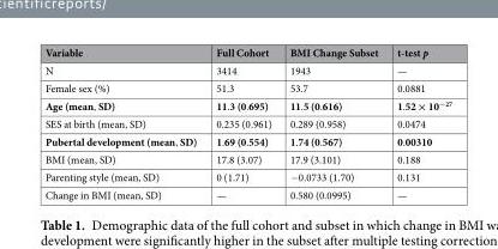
<table><thead><tr><td>Variable</td><td>Full Cohort</td><td>BMI Change Subset</td><td>t-test p</td></tr></thead><tbody><tr><td>N</td><td>3414</td><td>1943</td><td>—</td></tr><tr><td>Female sex (%)</td><td>51.3</td><td>53.7</td><td>0.0881</td></tr><tr><td>Age (mean, SD)</td><td>11.3 (0.695)</td><td>11.5 (0.616)</td><td>1.52 × 10<sup>−27</sup></td></tr><tr><td>SES at birth (mean, SD)</td><td>0.235 (0.961)</td><td>0.289 (0.958)</td><td>0.0474</td></tr><tr><td>Pubertal development (mean, SD)</td><td>1.69 (0.554)</td><td>1.74 (0.567)</td><td>0.00310</td></tr><tr><td>BMI (mean, SD)</td><td>17.8 (3.07)</td><td>17.9 (3.101)</td><td>0.188</td></tr><tr><td>Parenting style (mean, SD)</td><td>0 (1.71)</td><td>−0.0733 (1.70)</td><td>0.131</td></tr><tr><td>Change in BMI (mean, SD)</td><td>—</td><td>0.580 (0.0995)</td><td>—</td></tr></tbody></table>